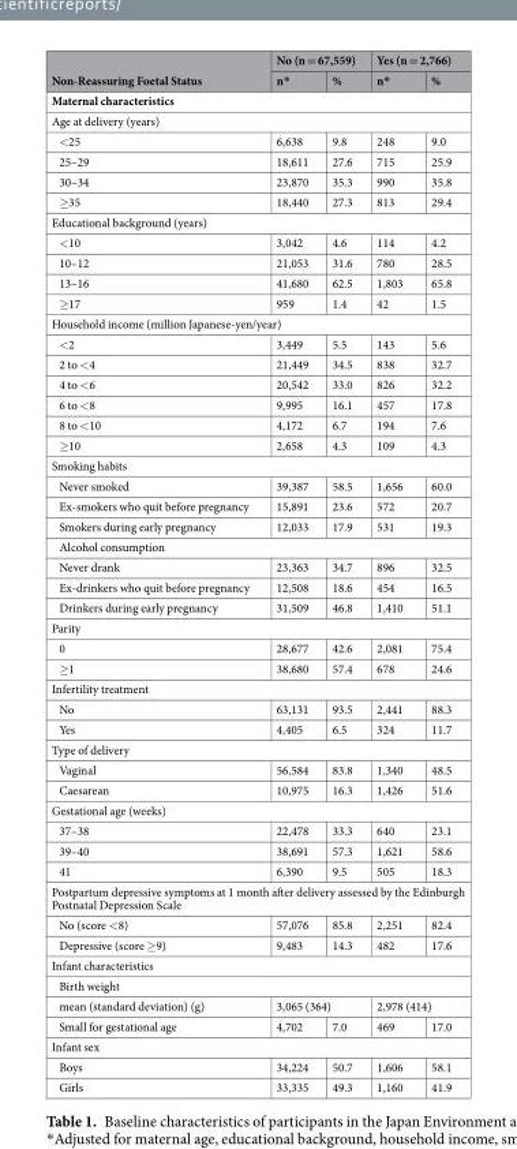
<table><thead><tr><td rowspan="2">Non-Reassuring Foetal Status</td><td colspan="2">No (n = 67,559)</td><td colspan="2">Yes (n = 2,766)</td></tr><tr><td>n*</td><td>%</td><td>n*</td><td>%</td></tr></thead><tbody><tr><td colspan="5">Maternal characteristics</td></tr><tr><td colspan="5">Age at delivery (years)</td></tr><tr><td>&lt;25</td><td>6,638</td><td>9.8</td><td>248</td><td>9.0</td></tr><tr><td>25–29</td><td>18,611</td><td>27.6</td><td>715</td><td>25.9</td></tr><tr><td>30–34</td><td>23,870</td><td>35.3</td><td>990</td><td>35.8</td></tr><tr><td>≥35</td><td>18,440</td><td>27.3</td><td>813</td><td>29.4</td></tr><tr><td colspan="5">Educational background (years)</td></tr><tr><td>&lt;10</td><td>3,042</td><td>4.6</td><td>114</td><td>4.2</td></tr><tr><td>10–12</td><td>21,053</td><td>31.6</td><td>780</td><td>28.5</td></tr><tr><td>13–16</td><td>41,680</td><td>62.5</td><td>1,803</td><td>65.8</td></tr><tr><td>≥17</td><td>959</td><td>1.4</td><td>42</td><td>1.5</td></tr><tr><td colspan="5">Household income (million Japanese-yen/year)</td></tr><tr><td>&lt;2</td><td>3,449</td><td>5.5</td><td>143</td><td>5.6</td></tr><tr><td>2 to &lt;4</td><td>21,449</td><td>34.5</td><td>838</td><td>32.7</td></tr><tr><td>4 to &lt;6</td><td>20,542</td><td>33.0</td><td>826</td><td>32.2</td></tr><tr><td>6 to &lt;8</td><td>9,995</td><td>16.1</td><td>457</td><td>17.8</td></tr><tr><td>8 to &lt;10</td><td>4,172</td><td>6.7</td><td>194</td><td>7.6</td></tr><tr><td>≥10</td><td>2,658</td><td>4.3</td><td>109</td><td>4.3</td></tr><tr><td colspan="5">Smoking habits</td></tr><tr><td>Never smoked</td><td>39,387</td><td>58.5</td><td>1,656</td><td>60.0</td></tr><tr><td>Ex-smokers who quit before pregnancy</td><td>15,891</td><td>23.6</td><td>572</td><td>20.7</td></tr><tr><td>Smokers during early pregnancy</td><td>12,033</td><td>17.9</td><td>531</td><td>19.3</td></tr><tr><td colspan="5">Alcohol consumption</td></tr><tr><td>Never drank</td><td>23,363</td><td>34.7</td><td>896</td><td>32.5</td></tr><tr><td>Ex-drinkers who quit before pregnancy</td><td>12,508</td><td>18.6</td><td>454</td><td>16.5</td></tr><tr><td>Drinkers during early pregnancy</td><td>31,509</td><td>46.8</td><td>1,410</td><td>51.1</td></tr><tr><td colspan="5">Parity</td></tr><tr><td>0</td><td>28,677</td><td>42.6</td><td>2,081</td><td>75.4</td></tr><tr><td>≥1</td><td>38,680</td><td>57.4</td><td>678</td><td>24.6</td></tr><tr><td colspan="5">Infertility treatment</td></tr><tr><td>No</td><td>63,131</td><td>93.5</td><td>2,441</td><td>88.3</td></tr><tr><td>Yes</td><td>4,405</td><td>6.5</td><td>324</td><td>11.7</td></tr><tr><td colspan="5">Type of delivery</td></tr><tr><td>Vaginal</td><td>56,584</td><td>83.8</td><td>1,340</td><td>48.5</td></tr><tr><td>Caesarean</td><td>10,975</td><td>16.3</td><td>1,426</td><td>51.6</td></tr><tr><td colspan="5">Gestational age (weeks)</td></tr><tr><td>37–38</td><td>22,478</td><td>33.3</td><td>640</td><td>23.1</td></tr><tr><td>39–40</td><td>38,691</td><td>57.3</td><td>1,621</td><td>58.6</td></tr><tr><td>41</td><td>6,390</td><td>9.5</td><td>505</td><td>18.3</td></tr><tr><td colspan="5">Postpartum depressive symptoms at 1 month after delivery assessed by the Edinburgh Postnatal Depression Scale</td></tr><tr><td>No (score &lt;8)</td><td>57,076</td><td>85.8</td><td>2,251</td><td>82.4</td></tr><tr><td>Depressive (score ≥9)</td><td>9,483</td><td>14.3</td><td>482</td><td>17.6</td></tr><tr><td colspan="5">Infant characteristics</td></tr><tr><td colspan="5">Birth weight</td></tr><tr><td>mean (standard deviation) (g)</td><td colspan="2">3,065 (364)</td><td colspan="2">2,978 (414)</td></tr><tr><td>Small for gestational age</td><td>4,702</td><td>7.0</td><td>469</td><td>17.0</td></tr><tr><td colspan="5">Infant sex</td></tr><tr><td>Boys</td><td>34,224</td><td>50.7</td><td>1,606</td><td>58.1</td></tr><tr><td>Girls</td><td>33,335</td><td>49.3</td><td>1,160</td><td>41.9</td></tr></tbody></table>